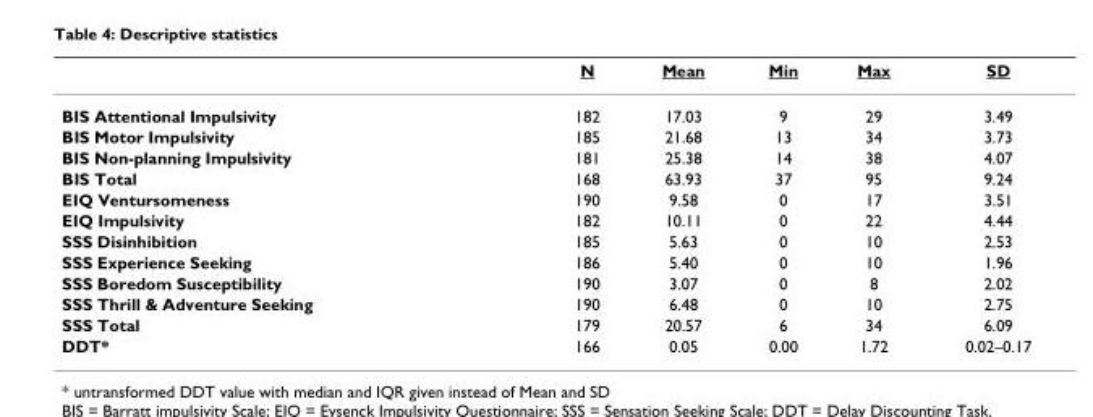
<table><thead><tr><td></td><td>N</td><td>Mean</td><td>Min</td><td>Max</td><td>SD</td></tr></thead><tbody><tr><td>BIS Attentional Impulsivity</td><td>182</td><td>17.03</td><td>9</td><td>29</td><td>3.49</td></tr><tr><td>BIS Motor Impulsivity</td><td>185</td><td>21.68</td><td>13</td><td>34</td><td>3.73</td></tr><tr><td>BIS Non-planning Impulsivity</td><td>181</td><td>25.38</td><td>14</td><td>38</td><td>4.07</td></tr><tr><td>BIS Total</td><td>168</td><td>63.93</td><td>37</td><td>95</td><td>9.24</td></tr><tr><td>EIQ Ventursomeness</td><td>190</td><td>9.58</td><td>0</td><td>17</td><td>3.51</td></tr><tr><td>EIQ Impulsivity</td><td>182</td><td>10.11</td><td>0</td><td>22</td><td>4.44</td></tr><tr><td>SSS Disinhibition</td><td>185</td><td>5.63</td><td>0</td><td>10</td><td>2.53</td></tr><tr><td>SSS Experience Seeking</td><td>186</td><td>5.40</td><td>0</td><td>10</td><td>1.96</td></tr><tr><td>SSS Boredom Susceptibility</td><td>190</td><td>3.07</td><td>0</td><td>8</td><td>2.02</td></tr><tr><td>SSS Thrill &amp; Adventure Seeking</td><td>190</td><td>6.48</td><td>0</td><td>10</td><td>2.75</td></tr><tr><td>SSS Total</td><td>179</td><td>20.57</td><td>6</td><td>34</td><td>6.09</td></tr><tr><td>DDT*</td><td>166</td><td>0.05</td><td>0.00</td><td>1.72</td><td>0.02–0.17</td></tr></tbody></table>